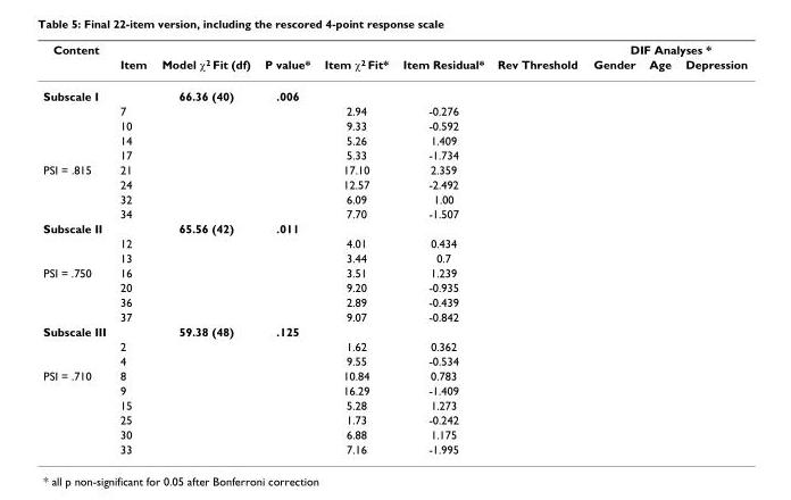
<table><thead><tr><td rowspan="2">Content</td><td rowspan="2">Item</td><td rowspan="2">Model χ2 Fit (df)</td><td rowspan="2">P value*</td><td rowspan="2">Item χ2 Fit*</td><td rowspan="2">Item Residual*</td><td rowspan="2">Rev Threshold</td><td colspan="3">DIF Analyses *</td></tr><tr><td>Gender</td><td>Age</td><td>Depression</td></tr></thead><tbody><tr><td rowspan="5">Subscale I</td><td></td><td>66.36 (40)</td><td>.006</td><td></td><td></td><td></td><td></td><td></td><td></td></tr><tr><td>7</td><td></td><td></td><td>2.94</td><td>-0.276</td><td></td><td></td><td></td><td></td></tr><tr><td>10</td><td></td><td></td><td>9.33</td><td>-0.592</td><td></td><td></td><td></td><td></td></tr><tr><td>14</td><td></td><td></td><td>5.26</td><td>1.409</td><td></td><td></td><td></td><td></td></tr><tr><td>17</td><td></td><td></td><td>5.33</td><td>-1.734</td><td></td><td></td><td></td><td></td></tr><tr><td rowspan="4">PSI = .815</td><td>21</td><td></td><td></td><td>17.10</td><td>2.359</td><td></td><td></td><td></td><td></td></tr><tr><td>24</td><td></td><td></td><td>12.57</td><td>-2.492</td><td></td><td></td><td></td><td></td></tr><tr><td>32</td><td></td><td></td><td>6.09</td><td>1.00</td><td></td><td></td><td></td><td></td></tr><tr><td>34</td><td></td><td></td><td>7.70</td><td>-1.507</td><td></td><td></td><td></td><td></td></tr><tr><td rowspan="3">Subscale II</td><td></td><td>65.56 (42)</td><td>.011</td><td></td><td></td><td></td><td></td><td></td><td></td></tr><tr><td>12</td><td></td><td></td><td>4.01</td><td>0.434</td><td></td><td></td><td></td><td></td></tr><tr><td>13</td><td></td><td></td><td>3.44</td><td>0.7</td><td></td><td></td><td></td><td></td></tr><tr><td rowspan="4">PSI = .750</td><td>16</td><td></td><td></td><td>3.51</td><td>1.239</td><td></td><td></td><td></td><td></td></tr><tr><td>20</td><td></td><td></td><td>9.20</td><td>-0.935</td><td></td><td></td><td></td><td></td></tr><tr><td>36</td><td></td><td></td><td>2.89</td><td>-0.439</td><td></td><td></td><td></td><td></td></tr><tr><td>37</td><td></td><td></td><td>9.07</td><td>-0.842</td><td></td><td></td><td></td><td></td></tr><tr><td rowspan="3">Subscale III</td><td></td><td>59.38 (48)</td><td>.125</td><td></td><td></td><td></td><td></td><td></td><td></td></tr><tr><td>2</td><td></td><td></td><td>1.62</td><td>0.362</td><td></td><td></td><td></td><td></td></tr><tr><td>4</td><td></td><td></td><td>9.55</td><td>-0.534</td><td></td><td></td><td></td><td></td></tr><tr><td rowspan="6">PSI = .710</td><td>8</td><td></td><td></td><td>10.84</td><td>0.783</td><td></td><td></td><td></td><td></td></tr><tr><td>9</td><td></td><td></td><td>16.29</td><td>-1.409</td><td></td><td></td><td></td><td></td></tr><tr><td>15</td><td></td><td></td><td>5.28</td><td>1.273</td><td></td><td></td><td></td><td></td></tr><tr><td>25</td><td></td><td></td><td>1.73</td><td>-0.242</td><td></td><td></td><td></td><td></td></tr><tr><td>30</td><td></td><td></td><td>6.88</td><td>1.175</td><td></td><td></td><td></td><td></td></tr><tr><td>33</td><td></td><td></td><td>7.16</td><td>-1.995</td><td></td><td></td><td></td><td></td></tr></tbody></table>